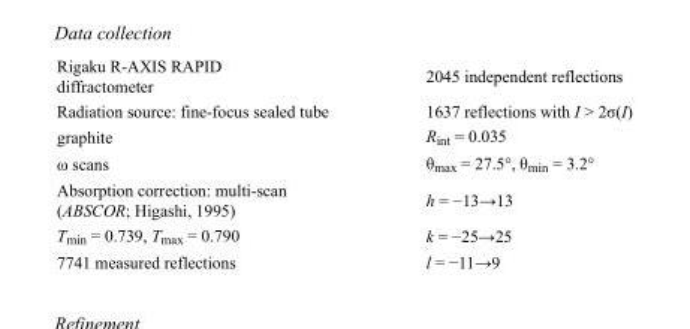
<table><tbody><tr><td>Rigaku R-AXIS RAPID diffractometer</td><td>2045 independent reflections</td></tr><tr><td>Radiation source: fine-focus sealed tube</td><td>1637 reflections with I &gt; 2σ(I)</td></tr><tr><td>graphite</td><td>R<sub>int</sub> = 0.035</td></tr><tr><td>ω scans</td><td>θ<sub>max</sub> = 27.5°, θ<sub>min</sub> = 3.2°</td></tr><tr><td>Absorption correction: multi-scan (ABSCOR; Higashi, 1995)</td><td>h = −13→13</td></tr><tr><td>T<sub>min</sub> = 0.739, T<sub>max</sub> = 0.790</td><td>k = −25→25</td></tr><tr><td>7741 measured reflections</td><td>l = −11→9</td></tr></tbody></table>